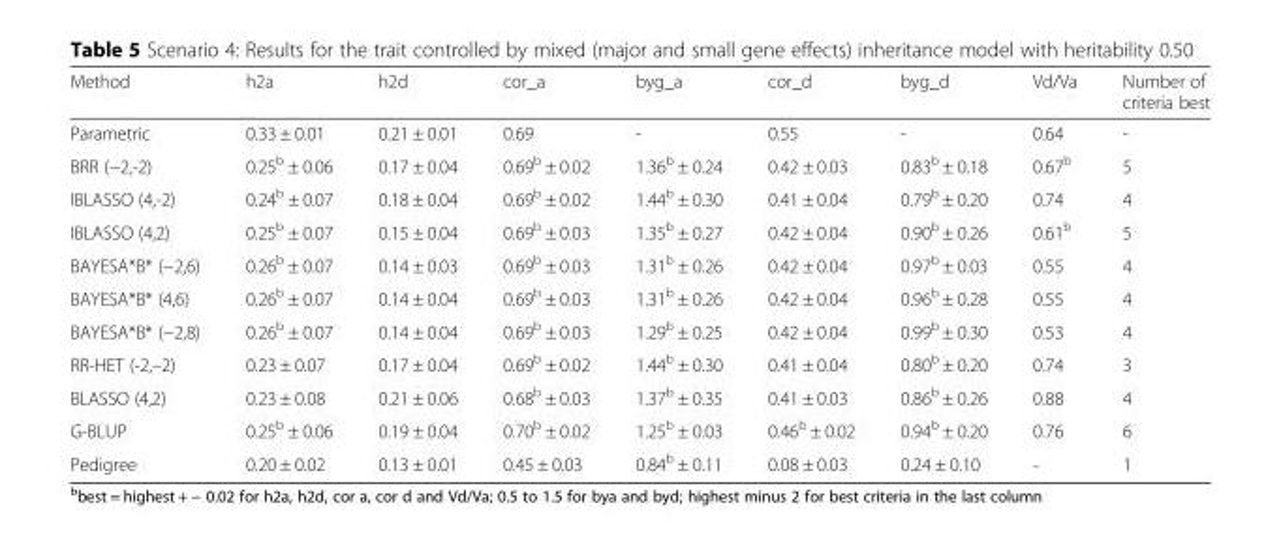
<table><thead><tr><td>Method</td><td>h2a</td><td>h2d</td><td>cor_a</td><td>byg_a</td><td>cor_d</td><td>byg_d</td><td>Vd/Va</td><td>Number of criteria best</td></tr></thead><tbody><tr><td>Parametric</td><td>0.33 ± 0.01</td><td>0.21 ± 0.01</td><td>0.69</td><td>-</td><td>0.55</td><td>-</td><td>0.64</td><td>-</td></tr><tr><td>BRR (−2,-2)</td><td>0.25<sup>b</sup> ± 0.06</td><td>0.17 ± 0.04</td><td>0.69<sup>b</sup> ± 0.02</td><td>1.36<sup>b</sup> ± 0.24</td><td>0.42 ± 0.03</td><td>0.83<sup>b</sup> ± 0.18</td><td>0.67<sup>b</sup></td><td>5</td></tr><tr><td>IBLASSO (4,-2)</td><td>0.24<sup>b</sup> ± 0.07</td><td>0.18 ± 0.04</td><td>0.69<sup>b</sup> ± 0.02</td><td>1.44<sup>b</sup> ± 0.30</td><td>0.41 ± 0.04</td><td>0.79<sup>b</sup> ± 0.20</td><td>0.74</td><td>4</td></tr><tr><td>IBLASSO (4,2)</td><td>0.25<sup>b</sup> ± 0.07</td><td>0.15 ± 0.04</td><td>0.69<sup>b</sup> ± 0.03</td><td>1.35<sup>b</sup> ± 0.27</td><td>0.42 ± 0.04</td><td>0.90<sup>b</sup> ± 0.26</td><td>0.61<sup>b</sup></td><td>5</td></tr><tr><td>BAYESA*B* (−2,6)</td><td>0.26<sup>b</sup> ± 0.07</td><td>0.14 ± 0.03</td><td>0.69<sup>b</sup> ± 0.03</td><td>1.31<sup>b</sup> ± 0.26</td><td>0.42 ± 0.04</td><td>0.97<sup>b</sup> ± 0.03</td><td>0.55</td><td>4</td></tr><tr><td>BAYESA*B* (4,6)</td><td>0.26<sup>b</sup> ± 0.07</td><td>0.14 ± 0.04</td><td>0.69<sup>b</sup> ± 0.03</td><td>1.31<sup>b</sup> ± 0.26</td><td>0.42 ± 0.04</td><td>0.96<sup>b</sup> ± 0.28</td><td>0.55</td><td>4</td></tr><tr><td>BAYESA*B* (−2,8)</td><td>0.26<sup>b</sup> ± 0.07</td><td>0.14 ± 0.04</td><td>0.69<sup>b</sup> ± 0.03</td><td>1.29<sup>b</sup> ± 0.25</td><td>0.42 ± 0.04</td><td>0.99<sup>b</sup> ± 0.30</td><td>0.53</td><td>4</td></tr><tr><td>RR-HET (-2,–2)</td><td>0.23 ± 0.07</td><td>0.17 ± 0.04</td><td>0.69<sup>b</sup> ± 0.02</td><td>1.44<sup>b</sup> ± 0.30</td><td>0.41 ± 0.04</td><td>0.80<sup>b</sup> ± 0.20</td><td>0.74</td><td>3</td></tr><tr><td>BLASSO (4,2)</td><td>0.23 ± 0.08</td><td>0.21 ± 0.06</td><td>0.68<sup>b</sup> ± 0.03</td><td>1.37<sup>b</sup> ± 0.35</td><td>0.41 ± 0.03</td><td>0.86<sup>b</sup> ± 0.26</td><td>0.88</td><td>4</td></tr><tr><td>G-BLUP</td><td>0.25<sup>b</sup> ± 0.06</td><td>0.19 ± 0.04</td><td>0.70<sup>b</sup> ± 0.02</td><td>1.25<sup>b</sup> ± 0.03</td><td>0.46<sup>b</sup> ± 0.02</td><td>0.94<sup>b</sup> ± 0.20</td><td>0.76</td><td>6</td></tr><tr><td>Pedigree</td><td>0.20 ± 0.02</td><td>0.13 ± 0.01</td><td>0.45 ± 0.03</td><td>0.84<sup>b</sup> ± 0.11</td><td>0.08 ± 0.03</td><td>0.24 ± 0.10</td><td>-</td><td>1</td></tr></tbody></table>